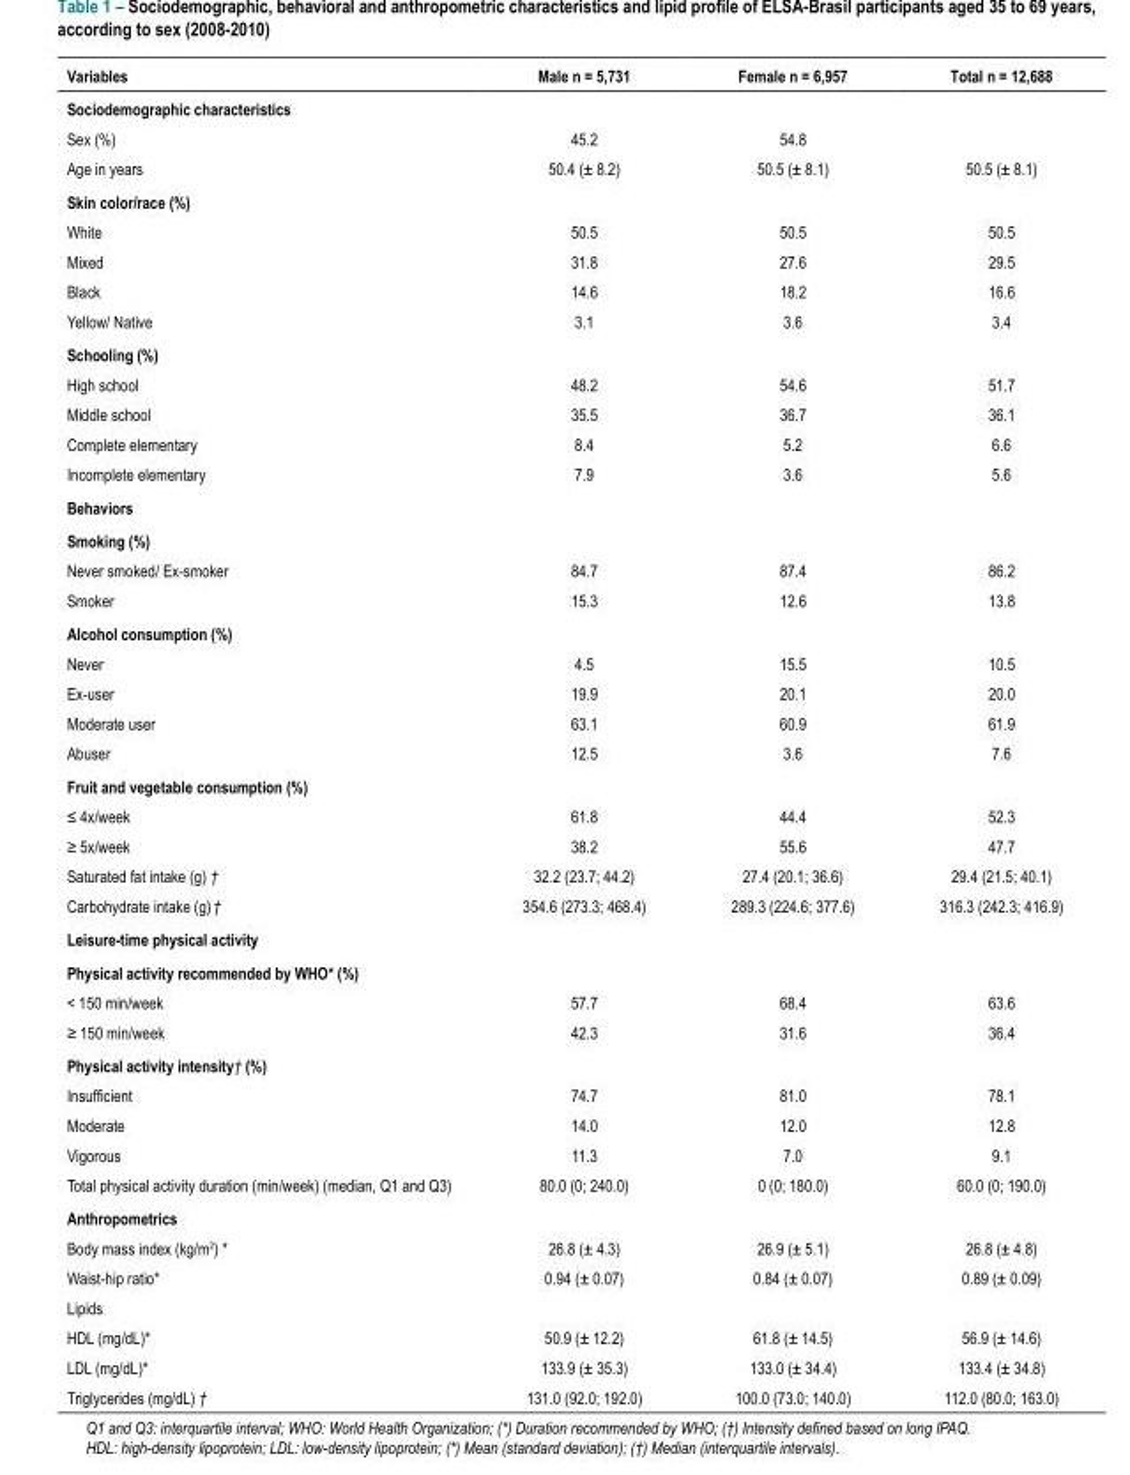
<table><thead><tr><td>Variables</td><td>Male n = 5,731</td><td>Female n = 6,957</td><td>Total n = 12,688</td></tr></thead><tbody><tr><td colspan="4">Sociodemographic characteristics</td></tr><tr><td>Sex (%)</td><td>45.2</td><td>54.8</td><td></td></tr><tr><td>Age in years</td><td>50.4 (± 8.2)</td><td>50.5 (± 8.1)</td><td>50.5 (± 8.1)</td></tr><tr><td colspan="4">Skin color/race (%)</td></tr><tr><td>White</td><td>50.5</td><td>50.5</td><td>50.5</td></tr><tr><td>Mixed</td><td>31.8</td><td>27.6</td><td>29.5</td></tr><tr><td>Black</td><td>14.6</td><td>18.2</td><td>16.6</td></tr><tr><td>Yellow/ Native</td><td>3.1</td><td>3.6</td><td>3.4</td></tr><tr><td colspan="4">Schooling (%)</td></tr><tr><td>High school</td><td>48.2</td><td>54.6</td><td>51.7</td></tr><tr><td>Middle school</td><td>35.5</td><td>36.7</td><td>36.1</td></tr><tr><td>Complete elementary</td><td>8.4</td><td>5.2</td><td>6.6</td></tr><tr><td>Incomplete elementary</td><td>7.9</td><td>3.6</td><td>5.6</td></tr><tr><td colspan="4">Behaviors</td></tr><tr><td colspan="4">Smoking (%)</td></tr><tr><td>Never smoked/ Ex-smoker</td><td>84.7</td><td>87.4</td><td>86.2</td></tr><tr><td>Smoker</td><td>15.3</td><td>12.6</td><td>13.8</td></tr><tr><td colspan="4">Alcohol consumption (%)</td></tr><tr><td>Never</td><td>4.5</td><td>15.5</td><td>10.5</td></tr><tr><td>Ex-user</td><td>19.9</td><td>20.1</td><td>20.0</td></tr><tr><td>Moderate user</td><td>63.1</td><td>60.9</td><td>61.9</td></tr><tr><td>Abuser</td><td>12.5</td><td>3.6</td><td>7.6</td></tr><tr><td colspan="4">Fruit and vegetable consumption (%)</td></tr><tr><td>≤ 4x/week</td><td>61.8</td><td>44.4</td><td>52.3</td></tr><tr><td>≥ 5x/week</td><td>38.2</td><td>55.6</td><td>47.7</td></tr><tr><td>Saturated fat intake (g) †</td><td>32.2 (23.7; 44.2)</td><td>27.4 (20.1; 36.6)</td><td>29.4 (21.5; 40.1)</td></tr><tr><td>Carbohydrate intake (g) †</td><td>354.6 (273.3; 468.4)</td><td>289.3 (224.6; 377.6)</td><td>316.3 (242.3; 416.9)</td></tr><tr><td colspan="4">Leisure-time physical activity</td></tr><tr><td colspan="4">Physical activity recommended by WHO* (%)</td></tr><tr><td>&lt; 150 min/week</td><td>57.7</td><td>68.4</td><td>63.6</td></tr><tr><td>≥ 150 min/week</td><td>42.3</td><td>31.6</td><td>36.4</td></tr><tr><td colspan="4">Physical activity intensity† (%)</td></tr><tr><td>Insufficient</td><td>74.7</td><td>81.0</td><td>78.1</td></tr><tr><td>Moderate</td><td>14.0</td><td>12.0</td><td>12.8</td></tr><tr><td>Vigorous</td><td>11.3</td><td>7.0</td><td>9.1</td></tr><tr><td>Total physical activity duration (min/week) (median, Q1 and Q3)</td><td>80.0 (0; 240.0)</td><td>0 (0; 180.0)</td><td>60.0 (0; 190.0)</td></tr><tr><td colspan="4">Anthropometrics</td></tr><tr><td>Body mass index (kg/m<sup>2</sup>) *</td><td>26.8 (± 4.3)</td><td>26.9 (± 5.1)</td><td>26.8 (± 4.8)</td></tr><tr><td>Waist-hip ratio*</td><td>0.94 (± 0.07)</td><td>0.84 (± 0.07)</td><td>0.89 (± 0.09)</td></tr><tr><td colspan="4">Lipids</td></tr><tr><td>HDL (mg/dL)*</td><td>50.9 (± 12.2)</td><td>61.8 (± 14.5)</td><td>56.9 (± 14.6)</td></tr><tr><td>LDL (mg/dL)*</td><td>133.9 (± 35.3)</td><td>133.0 (± 34.4)</td><td>133.4 (± 34.8)</td></tr><tr><td>Triglycerides (mg/dL) †</td><td>131.0 (92.0; 192.0)</td><td>100.0 (73.0; 140.0)</td><td>112.0 (80.0; 163.0)</td></tr></tbody></table>